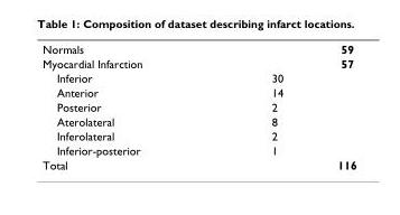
<table><tbody><tr><td>Normals</td><td></td><td>59</td></tr><tr><td>Myocardial Infarction</td><td></td><td>57</td></tr><tr><td>Inferior</td><td>30</td><td></td></tr><tr><td>Anterior</td><td>14</td><td></td></tr><tr><td>Posterior</td><td>2</td><td></td></tr><tr><td>Aterolateral</td><td>8</td><td></td></tr><tr><td>Inferolateral</td><td>2</td><td></td></tr><tr><td>Inferior-posterior</td><td>1</td><td></td></tr><tr><td>Total</td><td></td><td>116</td></tr></tbody></table>